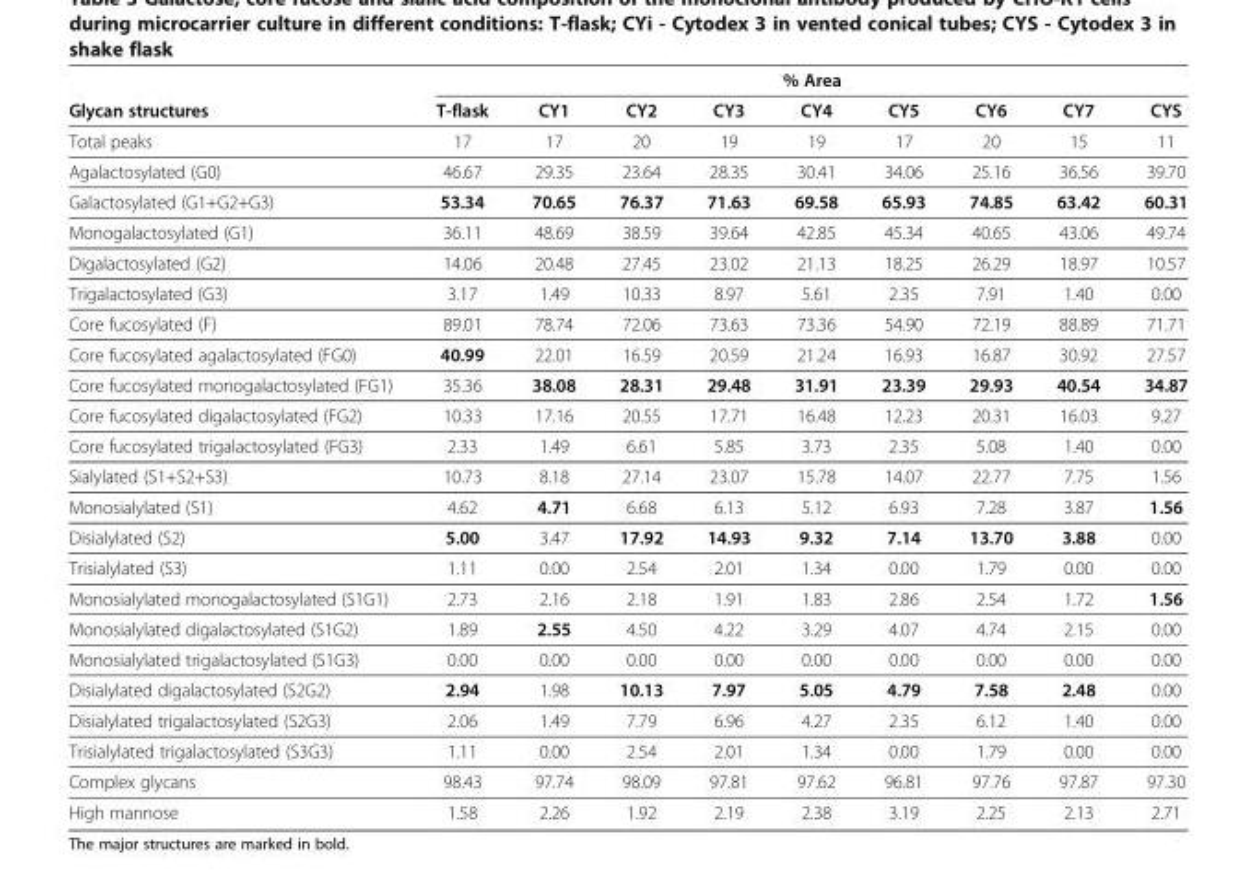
<table><thead><tr><td rowspan="2">Glycan structures</td><td colspan="9">% Area</td></tr><tr><td>T-flask</td><td>CY1</td><td>CY2</td><td>CY3</td><td>CY4</td><td>CY5</td><td>CY6</td><td>CY7</td><td>CYS</td></tr></thead><tbody><tr><td>Total peaks</td><td>17</td><td>17</td><td>20</td><td>19</td><td>19</td><td>17</td><td>20</td><td>15</td><td>11</td></tr><tr><td>Agalactosylated (G0)</td><td>46.67</td><td>29.35</td><td>23.64</td><td>28.35</td><td>30.41</td><td>34.06</td><td>25.16</td><td>36.56</td><td>39.70</td></tr><tr><td>Galactosylated (G1+G2+G3)</td><td>53.34</td><td>70.65</td><td>76.37</td><td>71.63</td><td>69.58</td><td>65.93</td><td>74.85</td><td>63.42</td><td>60.31</td></tr><tr><td>Monogalactosylated (G1)</td><td>36.11</td><td>48.69</td><td>38.59</td><td>39.64</td><td>42.85</td><td>45.34</td><td>40.65</td><td>43.06</td><td>49.74</td></tr><tr><td>Digalactosylated (G2)</td><td>14.06</td><td>20.48</td><td>27.45</td><td>23.02</td><td>21.13</td><td>18.25</td><td>26.29</td><td>18.97</td><td>10.57</td></tr><tr><td>Trigalactosylated (G3)</td><td>3.17</td><td>1.49</td><td>10.33</td><td>8.97</td><td>5.61</td><td>2.35</td><td>7.91</td><td>1.40</td><td>0.00</td></tr><tr><td>Core fucosylated (F)</td><td>89.01</td><td>78.74</td><td>72.06</td><td>73.63</td><td>73.36</td><td>54.90</td><td>72.19</td><td>88.89</td><td>71.71</td></tr><tr><td>Core fucosylated agalactosylated (FG0)</td><td>40.99</td><td>22.01</td><td>16.59</td><td>20.59</td><td>21.24</td><td>16.93</td><td>16.87</td><td>30.92</td><td>27.57</td></tr><tr><td>Core fucosylated monogalactosylated (FG1)</td><td>35.36</td><td>38.08</td><td>28.31</td><td>29.48</td><td>31.91</td><td>23.39</td><td>29.93</td><td>40.54</td><td>34.87</td></tr><tr><td>Core fucosylated digalactosylated (FG2)</td><td>10.33</td><td>17.16</td><td>20.55</td><td>17.71</td><td>16.48</td><td>12.23</td><td>20.31</td><td>16.03</td><td>9.27</td></tr><tr><td>Core fucosylated trigalactosylated (FG3)</td><td>2.33</td><td>1.49</td><td>6.61</td><td>5.85</td><td>3.73</td><td>2.35</td><td>5.08</td><td>1.40</td><td>0.00</td></tr><tr><td>Sialylated (S1+S2+S3)</td><td>10.73</td><td>8.18</td><td>27.14</td><td>23.07</td><td>15.78</td><td>14.07</td><td>22.77</td><td>7.75</td><td>1.56</td></tr><tr><td>Monosialylated (S1)</td><td>4.62</td><td>4.71</td><td>6.68</td><td>6.13</td><td>5.12</td><td>6.93</td><td>7.28</td><td>3.87</td><td>1.56</td></tr><tr><td>Disialylated (S2)</td><td>5.00</td><td>3.47</td><td>17.92</td><td>14.93</td><td>9.32</td><td>7.14</td><td>13.70</td><td>3.88</td><td>0.00</td></tr><tr><td>Trisialylated (S3)</td><td>1.11</td><td>0.00</td><td>2.54</td><td>2.01</td><td>1.34</td><td>0.00</td><td>1.79</td><td>0.00</td><td>0.00</td></tr><tr><td>Monosialylated monogalactosylated (S1G1)</td><td>2.73</td><td>2.16</td><td>2.18</td><td>1.91</td><td>1.83</td><td>2.86</td><td>2.54</td><td>1.72</td><td>1.56</td></tr><tr><td>Monosialylated digalactosylated (S1G2)</td><td>1.89</td><td>2.55</td><td>4.50</td><td>4.22</td><td>3.29</td><td>4.07</td><td>4.74</td><td>2.15</td><td>0.00</td></tr><tr><td>Monosialylated trigalactosylated (S1G3)</td><td>0.00</td><td>0.00</td><td>0.00</td><td>0.00</td><td>0.00</td><td>0.00</td><td>0.00</td><td>0.00</td><td>0.00</td></tr><tr><td>Disialylated digalactosylated (S2G2)</td><td>2.94</td><td>1.98</td><td>10.13</td><td>7.97</td><td>5.05</td><td>4.79</td><td>7.58</td><td>2.48</td><td>0.00</td></tr><tr><td>Disialylated trigalactosylated (S2G3)</td><td>2.06</td><td>1.49</td><td>7.79</td><td>6.96</td><td>4.27</td><td>2.35</td><td>6.12</td><td>1.40</td><td>0.00</td></tr><tr><td>Trisialylated trigalactosylated (S3G3)</td><td>1.11</td><td>0.00</td><td>2.54</td><td>2.01</td><td>1.34</td><td>0.00</td><td>1.79</td><td>0.00</td><td>0.00</td></tr><tr><td>Complex glycans</td><td>98.43</td><td>97.74</td><td>98.09</td><td>97.81</td><td>97.62</td><td>96.81</td><td>97.76</td><td>97.87</td><td>97.30</td></tr><tr><td>High mannose</td><td>1.58</td><td>2.26</td><td>1.92</td><td>2.19</td><td>2.38</td><td>3.19</td><td>2.25</td><td>2.13</td><td>2.71</td></tr></tbody></table>